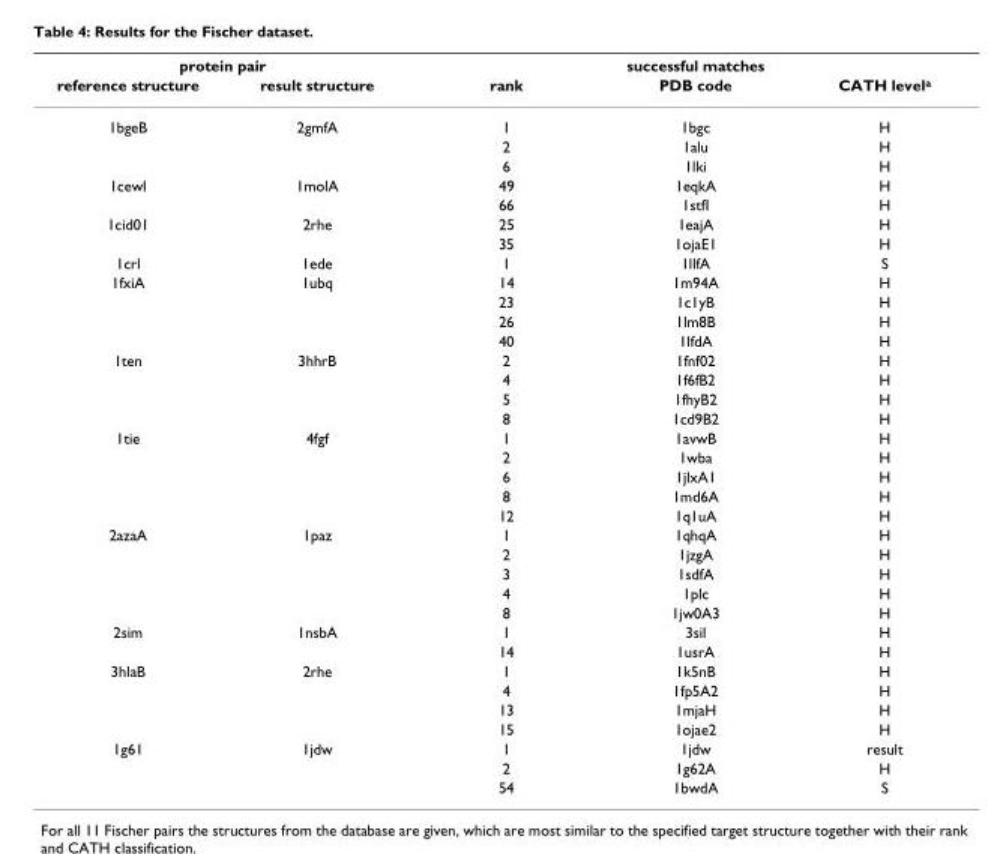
<table><thead><tr><td colspan="2">protein pair</td><td colspan="3">successful matches</td></tr><tr><td>reference structure</td><td>result structure</td><td>rank</td><td>PDB code</td><td>CATH level<sup>a</sup></td></tr></thead><tbody><tr><td rowspan="3">1bgeB</td><td>2gmfA</td><td>1</td><td>1bgc</td><td>H</td></tr><tr><td></td><td>2</td><td>1alu</td><td>H</td></tr><tr><td></td><td>6</td><td>1lki</td><td>H</td></tr><tr><td rowspan="2">1cewI</td><td>1molA</td><td>49</td><td>1eqkA</td><td>H</td></tr><tr><td></td><td>66</td><td>1stfI</td><td>H</td></tr><tr><td rowspan="2">1cid01</td><td>2rhe</td><td>25</td><td>1eajA</td><td>H</td></tr><tr><td></td><td>35</td><td>1ojaE1</td><td>H</td></tr><tr><td>1crl</td><td>1ede</td><td>1</td><td>1llfA</td><td>S</td></tr><tr><td rowspan="4">1fxiA</td><td>1ubq</td><td>14</td><td>1m94A</td><td>H</td></tr><tr><td></td><td>23</td><td>1c1yB</td><td>H</td></tr><tr><td></td><td>26</td><td>1lm8B</td><td>H</td></tr><tr><td></td><td>40</td><td>1lfdA</td><td>H</td></tr><tr><td rowspan="4">1ten</td><td>3hhrB</td><td>2</td><td>1fnf02</td><td>H</td></tr><tr><td></td><td>4</td><td>1f6fB2</td><td>H</td></tr><tr><td></td><td>5</td><td>1fhyB2</td><td>H</td></tr><tr><td></td><td>8</td><td>1cd9B2</td><td>H</td></tr><tr><td rowspan="5">1tie</td><td>4fgf</td><td>1</td><td>1avwB</td><td>H</td></tr><tr><td></td><td>2</td><td>1wba</td><td>H</td></tr><tr><td></td><td>6</td><td>1jlxA1</td><td>H</td></tr><tr><td></td><td>8</td><td>1md6A</td><td>H</td></tr><tr><td></td><td>12</td><td>1q1uA</td><td>H</td></tr><tr><td rowspan="5">2azaA</td><td>1paz</td><td>1</td><td>1qhqA</td><td>H</td></tr><tr><td></td><td>2</td><td>1jzgA</td><td>H</td></tr><tr><td></td><td>3</td><td>1sdfA</td><td>H</td></tr><tr><td></td><td>4</td><td>1plc</td><td>H</td></tr><tr><td></td><td>8</td><td>1jw0A3</td><td>H</td></tr><tr><td rowspan="2">2sim</td><td>1nsbA</td><td>1</td><td>3sil</td><td>H</td></tr><tr><td></td><td>14</td><td>1usrA</td><td>H</td></tr><tr><td rowspan="4">3hlaB</td><td>2rhe</td><td>1</td><td>1k5nB</td><td>H</td></tr><tr><td></td><td>4</td><td>1fp5A2</td><td>H</td></tr><tr><td></td><td>13</td><td>1mjaH</td><td>H</td></tr><tr><td></td><td>15</td><td>1ojae2</td><td>H</td></tr><tr><td rowspan="3">1g61</td><td>1jdw</td><td>1</td><td>1jdw</td><td>result</td></tr><tr><td></td><td>2</td><td>1g62A</td><td>H</td></tr><tr><td></td><td>54</td><td>1bwdA</td><td>S</td></tr></tbody></table>